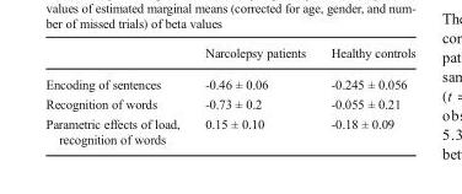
<table><thead><tr><td></td><td>Narcolepsy patients</td><td>Healthy controls</td></tr></thead><tbody><tr><td>Encoding of sentences</td><td>-0.46 ± 0.06</td><td>-0.245 ± 0.056</td></tr><tr><td>Recognition of words</td><td>-0.73 ± 0.2</td><td>-0.055 ± 0.21</td></tr><tr><td>Parametric effects of load, recognition of words</td><td>0.15 ± 0.10</td><td>-0.18 ± 0.09</td></tr></tbody></table>